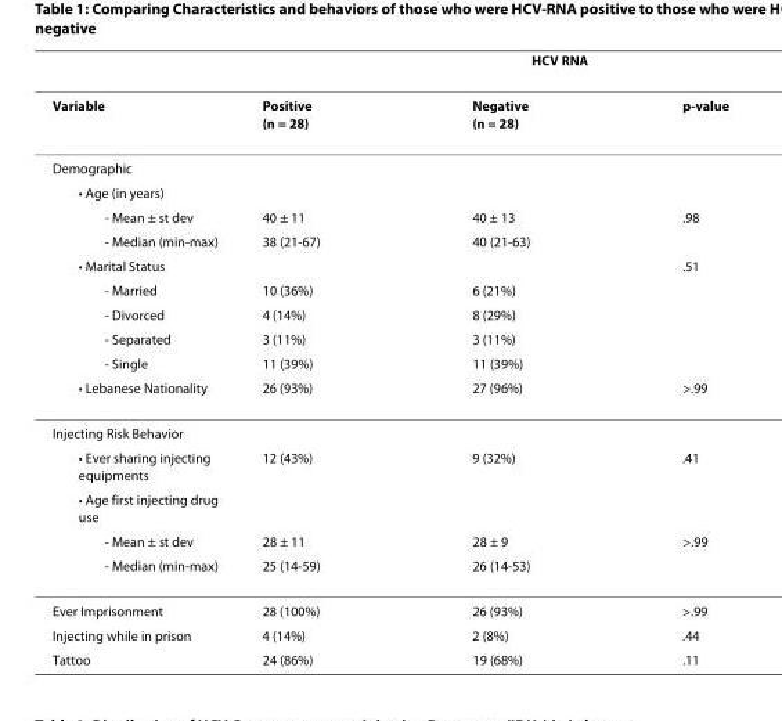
<table><thead><tr><td rowspan="2">Variable</td><td colspan="3">HCV RNA</td></tr><tr><td>Positive (n = 28)</td><td>Negative (n = 28)</td><td>p-value</td></tr></thead><tbody><tr><td colspan="4">Demographic</td></tr><tr><td colspan="4">• Age (in years)</td></tr><tr><td>- Mean ± st dev</td><td>40 ± 11</td><td>40 ± 13</td><td>.98</td></tr><tr><td>- Median (min-max)</td><td>38 (21-67)</td><td>40 (21-63)</td><td></td></tr><tr><td>• Marital Status</td><td></td><td></td><td>.51</td></tr><tr><td>- Married</td><td>10 (36%)</td><td>6 (21%)</td><td></td></tr><tr><td>- Divorced</td><td>4 (14%)</td><td>8 (29%)</td><td></td></tr><tr><td>- Separated</td><td>3 (11%)</td><td>3 (11%)</td><td></td></tr><tr><td>- Single</td><td>11 (39%)</td><td>11 (39%)</td><td></td></tr><tr><td>• Lebanese Nationality</td><td>26 (93%)</td><td>27 (96%)</td><td>&gt;.99</td></tr><tr><td colspan="4">Injecting Risk Behavior</td></tr><tr><td>• Ever sharing injecting equipments</td><td>12 (43%)</td><td>9 (32%)</td><td>.41</td></tr><tr><td colspan="4">• Age first injecting drug use</td></tr><tr><td>- Mean ± st dev</td><td>28 ± 11</td><td>28 ± 9</td><td>&gt;.99</td></tr><tr><td>- Median (min-max)</td><td>25 (14-59)</td><td>26 (14-53)</td><td></td></tr><tr><td>Ever Imprisonment</td><td>28 (100%)</td><td>26 (93%)</td><td>&gt;.99</td></tr><tr><td>Injecting while in prison</td><td>4 (14%)</td><td>2 (8%)</td><td>.44</td></tr><tr><td>Tattoo</td><td>24 (86%)</td><td>19 (68%)</td><td>.11</td></tr></tbody></table>